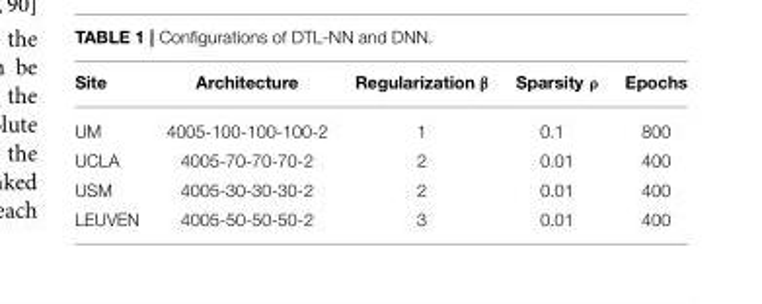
<table><thead><tr><td>Site</td><td>Architecture</td><td>Regularization β</td><td>Sparsity ρ</td><td>Epochs</td></tr></thead><tbody><tr><td>UM</td><td>4005-100-100-100-2</td><td>1</td><td>0.1</td><td>800</td></tr><tr><td>UCLA</td><td>4005-70-70-70-2</td><td>2</td><td>0.01</td><td>400</td></tr><tr><td>USM</td><td>4005-30-30-30-2</td><td>2</td><td>0.01</td><td>400</td></tr><tr><td>LEUVEN</td><td>4005-50-50-50-2</td><td>3</td><td>0.01</td><td>400</td></tr></tbody></table>